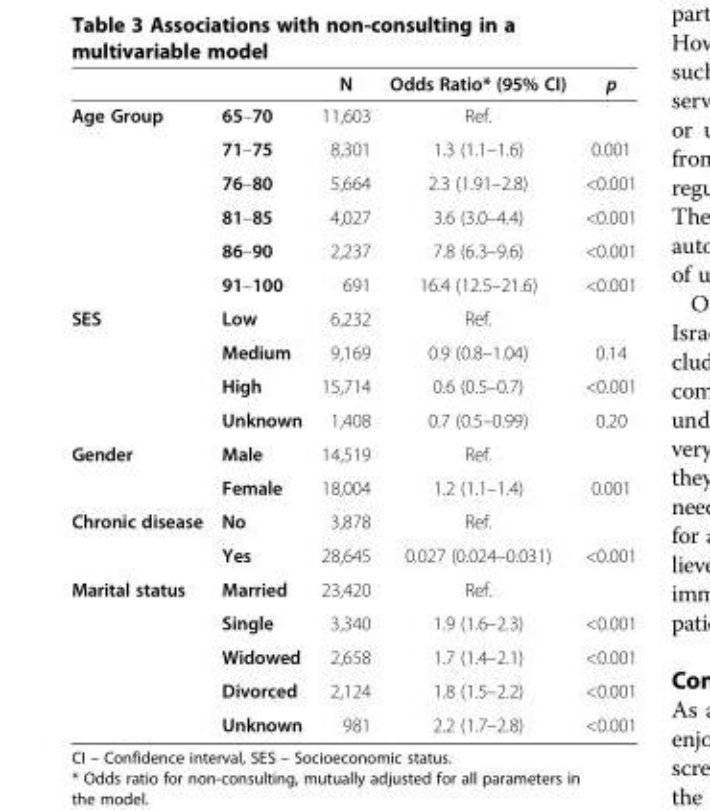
<table><thead><tr><td></td><td></td><td>N</td><td>Odds Ratio* (95% CI)</td><td>p</td></tr></thead><tbody><tr><td rowspan="6">Age Group</td><td>65–70</td><td>11,603</td><td>Ref.</td><td></td></tr><tr><td>71–75</td><td>8,301</td><td>1.3 (1.1–1.6)</td><td>0.001</td></tr><tr><td>76–80</td><td>5,664</td><td>2.3 (1.91–2.8)</td><td>&lt;0.001</td></tr><tr><td>81–85</td><td>4,027</td><td>3.6 (3.0–4.4)</td><td>&lt;0.001</td></tr><tr><td>86–90</td><td>2,237</td><td>7.8 (6.3–9.6)</td><td>&lt;0.001</td></tr><tr><td>91–100</td><td>691</td><td>16.4 (12.5–21.6)</td><td>&lt;0.001</td></tr><tr><td rowspan="4">SES</td><td>Low</td><td>6,232</td><td>Ref.</td><td></td></tr><tr><td>Medium</td><td>9,169</td><td>0.9 (0.8–1.04)</td><td>0.14</td></tr><tr><td>High</td><td>15,714</td><td>0.6 (0.5–0.7)</td><td>&lt;0.001</td></tr><tr><td>Unknown</td><td>1,408</td><td>0.7 (0.5–0.99)</td><td>0.20</td></tr><tr><td rowspan="2">Gender</td><td>Male</td><td>14,519</td><td>Ref.</td><td></td></tr><tr><td>Female</td><td>18,004</td><td>1.2 (1.1–1.4)</td><td>0.001</td></tr><tr><td rowspan="2">Chronic disease</td><td>No</td><td>3,878</td><td>Ref.</td><td></td></tr><tr><td>Yes</td><td>28,645</td><td>0.027 (0.024–0.031)</td><td>&lt;0.001</td></tr><tr><td rowspan="5">Marital status</td><td>Married</td><td>23,420</td><td>Ref.</td><td></td></tr><tr><td>Single</td><td>3,340</td><td>1.9 (1.6–2.3)</td><td>&lt;0.001</td></tr><tr><td>Widowed</td><td>2,658</td><td>1.7 (1.4–2.1)</td><td>&lt;0.001</td></tr><tr><td>Divorced</td><td>2,124</td><td>1.8 (1.5–2.2)</td><td>&lt;0.001</td></tr><tr><td>Unknown</td><td>981</td><td>2.2 (1.7–2.8)</td><td>&lt;0.001</td></tr></tbody></table>